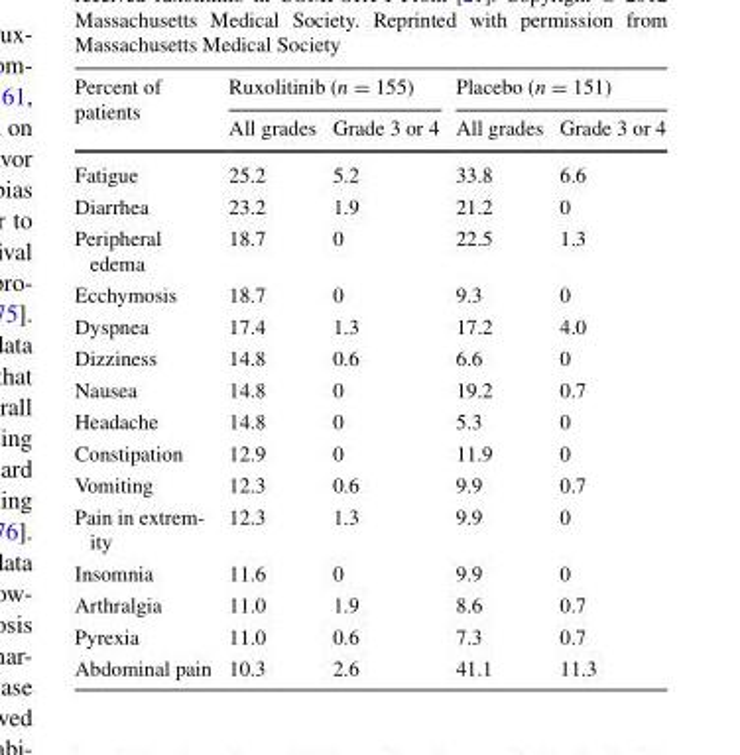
<table><thead><tr><td rowspan="2">Percent of patients</td><td colspan="2">Ruxolitinib (n = 155)</td><td colspan="2">Placebo (n = 151)</td></tr><tr><td>All grades</td><td>Grade 3 or 4</td><td>All grades</td><td>Grade 3 or 4</td></tr></thead><tbody><tr><td>Fatigue</td><td>25.2</td><td>5.2</td><td>33.8</td><td>6.6</td></tr><tr><td>Diarrhea</td><td>23.2</td><td>1.9</td><td>21.2</td><td>0</td></tr><tr><td>Peripheral edema</td><td>18.7</td><td>0</td><td>22.5</td><td>1.3</td></tr><tr><td>Ecchymosis</td><td>18.7</td><td>0</td><td>9.3</td><td>0</td></tr><tr><td>Dyspnea</td><td>17.4</td><td>1.3</td><td>17.2</td><td>4.0</td></tr><tr><td>Dizziness</td><td>14.8</td><td>0.6</td><td>6.6</td><td>0</td></tr><tr><td>Nausea</td><td>14.8</td><td>0</td><td>19.2</td><td>0.7</td></tr><tr><td>Headache</td><td>14.8</td><td>0</td><td>5.3</td><td>0</td></tr><tr><td>Constipation</td><td>12.9</td><td>0</td><td>11.9</td><td>0</td></tr><tr><td>Vomiting</td><td>12.3</td><td>0.6</td><td>9.9</td><td>0.7</td></tr><tr><td>Pain in extrem- ity</td><td>12.3</td><td>1.3</td><td>9.9</td><td>0</td></tr><tr><td>Insomnia</td><td>11.6</td><td>0</td><td>9.9</td><td>0</td></tr><tr><td>Arthralgia</td><td>11.0</td><td>1.9</td><td>8.6</td><td>0.7</td></tr><tr><td>Pyrexia</td><td>11.0</td><td>0.6</td><td>7.3</td><td>0.7</td></tr><tr><td>Abdominal pain</td><td>10.3</td><td>2.6</td><td>41.1</td><td>11.3</td></tr></tbody></table>